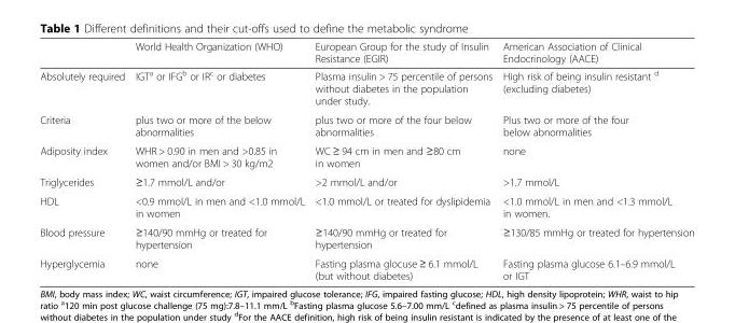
<table><thead><tr><td></td><td>World Health Organization (WHO)</td><td>European Group for the study of Insulin Resistance (EGIR)</td><td>American Association of Clinical Endocrinology (AACE)</td></tr></thead><tbody><tr><td>Absolutely required</td><td>IGT<sup>a</sup> or IFG<sup>b</sup> or IR<sup>c</sup> or diabetes</td><td>Plasma insulin &gt; 75 percentile of persons without diabetes in the population under study.</td><td>High risk of being insulin resistant <sup>d</sup> (excluding diabetes)</td></tr><tr><td>Criteria</td><td>plus two or more of the below abnormalities</td><td>plus two or more of the four below abnormalities</td><td>Plus two or more of the four below abnormalities</td></tr><tr><td>Adiposity index</td><td>WHR &gt; 0.90 in men and &gt;0.85 in women and/or BMI &gt; 30 kg/m2</td><td>WC ≥ 94 cm in men and ≥80 cm in women</td><td>none</td></tr><tr><td>Triglycerides</td><td>≥1.7 mmol/L and/or</td><td>&gt;2 mmol/L and/or</td><td>&gt;1.7 mmol/L</td></tr><tr><td>HDL</td><td>&lt;0.9 mmol/L in men and &lt;1.0 mmol/L in women</td><td>&lt;1.0 mmol/L or treated for dyslipidemia</td><td>&lt;1.0 mmol/L in men and &lt;1.3 mmol/L in women.</td></tr><tr><td>Blood pressure</td><td>≥140/90 mmHg or treated for hypertension</td><td>≥140/90 mmHg or treated for hypertension</td><td>≥130/85 mmHg or treated for hypertension</td></tr><tr><td>Hyperglycemia</td><td>none</td><td>Fasting plasma glocuse ≥ 6.1 mmol/L (but without diabetes)</td><td>Fasting plasma glucose 6.1–6.9 mmol/L or IGT</td></tr></tbody></table>